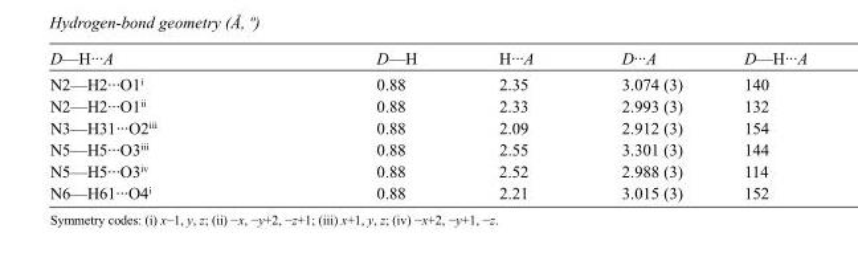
<table><tbody><tr><td>D—H···A</td><td>D—H</td><td>H···A</td><td>D···A</td><td>D—H···A</td></tr><tr><td>N2—H2···O1<sup>i</sup></td><td>0.88</td><td>2.35</td><td>3.074 (3)</td><td>140</td></tr><tr><td>N2—H2···O1<sup>ii</sup></td><td>0.88</td><td>2.33</td><td>2.993 (3)</td><td>132</td></tr><tr><td>N3—H31···O2<sup>iii</sup></td><td>0.88</td><td>2.09</td><td>2.912 (3)</td><td>154</td></tr><tr><td>N5—H5···O3<sup>iii</sup></td><td>0.88</td><td>2.55</td><td>3.301 (3)</td><td>144</td></tr><tr><td>N5—H5···O3<sup>iv</sup></td><td>0.88</td><td>2.52</td><td>2.988 (3)</td><td>114</td></tr><tr><td>N6—H61···O4<sup>i</sup></td><td>0.88</td><td>2.21</td><td>3.015 (3)</td><td>152</td></tr></tbody></table>